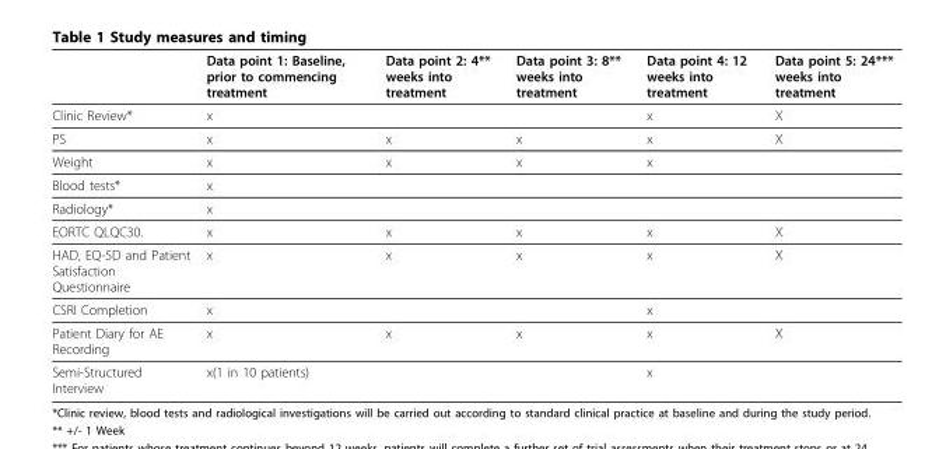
<table><thead><tr><td></td><td>Data point 1: Baseline, prior to commencing treatment</td><td>Data point 2: 4** weeks into treatment</td><td>Data point 3: 8** weeks into treatment</td><td>Data point 4: 12 weeks into treatment</td><td>Data point 5: 24*** weeks into treatment</td></tr></thead><tbody><tr><td>Clinic Review*</td><td>x</td><td></td><td></td><td>x</td><td>X</td></tr><tr><td>PS</td><td>x</td><td>x</td><td>x</td><td>x</td><td>X</td></tr><tr><td>Weight</td><td>x</td><td>x</td><td>x</td><td>x</td><td></td></tr><tr><td>Blood tests*</td><td>x</td><td></td><td></td><td></td><td></td></tr><tr><td>Radiology*</td><td>x</td><td></td><td></td><td></td><td></td></tr><tr><td>EORTC QLQC30.</td><td>x</td><td>x</td><td>x</td><td>x</td><td>X</td></tr><tr><td>HAD, EQ-5D and Patient Satisfaction Questionnaire</td><td>x</td><td>x</td><td>x</td><td>x</td><td>X</td></tr><tr><td>CSRI Completion</td><td>x</td><td></td><td></td><td>x</td><td></td></tr><tr><td>Patient Diary for AE Recording</td><td>x</td><td>x</td><td>x</td><td>x</td><td>X</td></tr><tr><td>Semi-Structured Interview</td><td>x(1 in 10 patients)</td><td></td><td></td><td>x</td><td></td></tr></tbody></table>